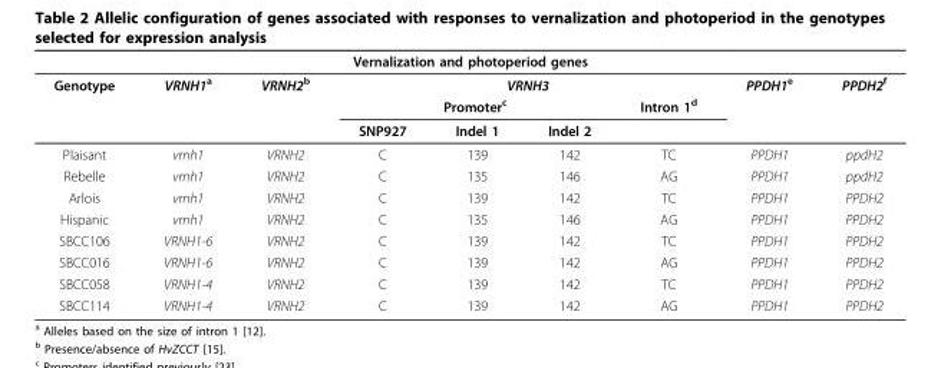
<table><thead><tr><td colspan="9">Vernalization and photoperiod genes</td></tr><tr><td rowspan="3">Genotype</td><td rowspan="3">VRNH1<sup>a</sup></td><td rowspan="3">VRNH2<sup>b</sup></td><td colspan="4">VRNH3</td><td rowspan="3">PPDH1<sup>e</sup></td><td rowspan="3">PPDH2<sup>f</sup></td></tr><tr><td colspan="3">Promoter<sup>c</sup></td><td rowspan="2">Intron 1<sup>d</sup></td></tr><tr><td>SNP927</td><td>Indel 1</td><td>Indel 2</td></tr></thead><tbody><tr><td>Plaisant</td><td>vrnh1</td><td>VRNH2</td><td>C</td><td>139</td><td>142</td><td>TC</td><td>PPDH1</td><td>ppdH2</td></tr><tr><td>Rebelle</td><td>vrnh1</td><td>VRNH2</td><td>C</td><td>135</td><td>146</td><td>AG</td><td>PPDH1</td><td>ppdH2</td></tr><tr><td>Arlois</td><td>vrnh1</td><td>VRNH2</td><td>C</td><td>139</td><td>142</td><td>TC</td><td>PPDH1</td><td>PPDH2</td></tr><tr><td>Hispanic</td><td>vrnh1</td><td>VRNH2</td><td>C</td><td>135</td><td>146</td><td>AG</td><td>PPDH1</td><td>PPDH2</td></tr><tr><td>SBCC106</td><td>VRNH1-6</td><td>VRNH2</td><td>C</td><td>139</td><td>142</td><td>TC</td><td>PPDH1</td><td>PPDH2</td></tr><tr><td>SBCC016</td><td>VRNH1-6</td><td>VRNH2</td><td>C</td><td>139</td><td>142</td><td>AG</td><td>PPDH1</td><td>PPDH2</td></tr><tr><td>SBCC058</td><td>VRNH1-4</td><td>VRNH2</td><td>C</td><td>139</td><td>142</td><td>TC</td><td>PPDH1</td><td>PPDH2</td></tr><tr><td>SBCC114</td><td>VRNH1-4</td><td>VRNH2</td><td>C</td><td>139</td><td>142</td><td>AG</td><td>PPDH1</td><td>PPDH2</td></tr></tbody></table>